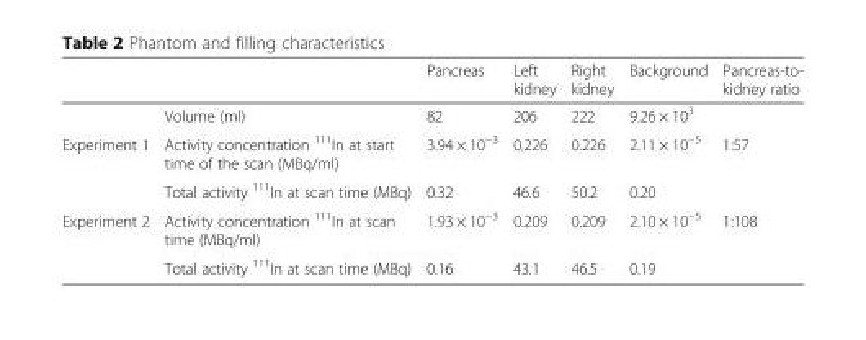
<table><thead><tr><td></td><td></td><td>Pancreas</td><td>Left kidney</td><td>Right kidney</td><td>Background</td><td>Pancreas-to- kidney ratio</td></tr></thead><tbody><tr><td></td><td>Volume (ml)</td><td>82</td><td>206</td><td>222</td><td>9.26 × 10<sup>3</sup></td><td></td></tr><tr><td rowspan="2">Experiment 1</td><td>Activity concentration <sup>111</sup>In at start time of the scan (MBq/ml)</td><td>3.94 × 10<sup>−3</sup></td><td>0.226</td><td>0.226</td><td>2.11 × 10<sup>−5</sup></td><td>1:57</td></tr><tr><td>Total activity <sup>111</sup>In at scan time (MBq)</td><td>0.32</td><td>46.6</td><td>50.2</td><td>0.20</td><td></td></tr><tr><td rowspan="2">Experiment 2</td><td>Activity concentration <sup>111</sup>In at scan time (MBq/ml)</td><td>1.93 × 10<sup>−3</sup></td><td>0.209</td><td>0.209</td><td>2.10 × 10<sup>−5</sup></td><td>1:108</td></tr><tr><td>Total activity <sup>111</sup>In at scan time (MBq)</td><td>0.16</td><td>43.1</td><td>46.5</td><td>0.19</td><td></td></tr></tbody></table>